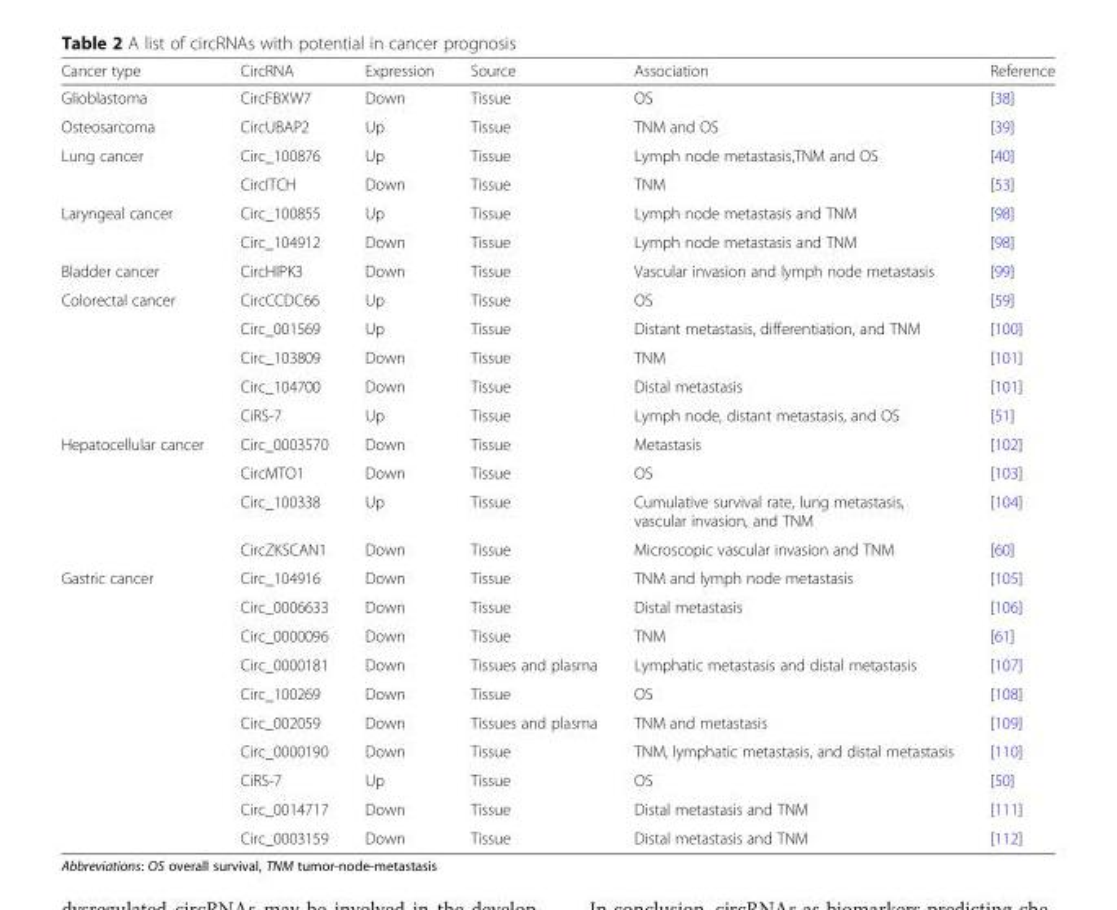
<table><thead><tr><td>Cancer type</td><td>CircRNA</td><td>Expression</td><td>Source</td><td>Association</td><td>Reference</td></tr></thead><tbody><tr><td>Glioblastoma</td><td>CircFBXW7</td><td>Down</td><td>Tissue</td><td>OS</td><td>[38]</td></tr><tr><td>Osteosarcoma</td><td>CircUBAP2</td><td>Up</td><td>Tissue</td><td>TNM and OS</td><td>[39]</td></tr><tr><td rowspan="2">Lung cancer</td><td>Circ_100876</td><td>Up</td><td>Tissue</td><td>Lymph node metastasis,TNM and OS</td><td>[40]</td></tr><tr><td>CircITCH</td><td>Down</td><td>Tissue</td><td>TNM</td><td>[53]</td></tr><tr><td rowspan="2">Laryngeal cancer</td><td>Circ_100855</td><td>Up</td><td>Tissue</td><td>Lymph node metastasis and TNM</td><td>[98]</td></tr><tr><td>Circ_104912</td><td>Down</td><td>Tissue</td><td>Lymph node metastasis and TNM</td><td>[98]</td></tr><tr><td>Bladder cancer</td><td>CircHIPK3</td><td>Down</td><td>Tissue</td><td>Vascular invasion and lymph node metastasis</td><td>[99]</td></tr><tr><td rowspan="5">Colorectal cancer</td><td>CircCCDC66</td><td>Up</td><td>Tissue</td><td>OS</td><td>[59]</td></tr><tr><td>Circ_001569</td><td>Up</td><td>Tissue</td><td>Distant metastasis, differentiation, and TNM</td><td>[100]</td></tr><tr><td>Circ_103809</td><td>Down</td><td>Tissue</td><td>TNM</td><td>[101]</td></tr><tr><td>Circ_104700</td><td>Down</td><td>Tissue</td><td>Distal metastasis</td><td>[101]</td></tr><tr><td>CiRS-7</td><td>Up</td><td>Tissue</td><td>Lymph node, distant metastasis, and OS</td><td>[51]</td></tr><tr><td rowspan="4">Hepatocellular cancer</td><td>Circ_0003570</td><td>Down</td><td>Tissue</td><td>Metastasis</td><td>[102]</td></tr><tr><td>CircMTO1</td><td>Down</td><td>Tissue</td><td>OS</td><td>[103]</td></tr><tr><td>Circ_100338</td><td>Up</td><td>Tissue</td><td>Cumulative survival rate, lung metastasis, vascular invasion, and TNM</td><td>[104]</td></tr><tr><td>CircZKSCAN1</td><td>Down</td><td>Tissue</td><td>Microscopic vascular invasion and TNM</td><td>[60]</td></tr><tr><td rowspan="10">Gastric cancer</td><td>Circ_104916</td><td>Down</td><td>Tissue</td><td>TNM and lymph node metastasis</td><td>[105]</td></tr><tr><td>Circ_0006633</td><td>Down</td><td>Tissue</td><td>Distal metastasis</td><td>[106]</td></tr><tr><td>Circ_0000096</td><td>Down</td><td>Tissue</td><td>TNM</td><td>[61]</td></tr><tr><td>Circ_0000181</td><td>Down</td><td>Tissues and plasma</td><td>Lymphatic metastasis and distal metastasis</td><td>[107]</td></tr><tr><td>Circ_100269</td><td>Down</td><td>Tissue</td><td>OS</td><td>[108]</td></tr><tr><td>Circ_002059</td><td>Down</td><td>Tissues and plasma</td><td>TNM and metastasis</td><td>[109]</td></tr><tr><td>Circ_0000190</td><td>Down</td><td>Tissue</td><td>TNM, lymphatic metastasis, and distal metastasis</td><td>[110]</td></tr><tr><td>CiRS-7</td><td>Up</td><td>Tissue</td><td>OS</td><td>[50]</td></tr><tr><td>Circ_0014717</td><td>Down</td><td>Tissue</td><td>Distal metastasis and TNM</td><td>[111]</td></tr><tr><td>Circ_0003159</td><td>Down</td><td>Tissue</td><td>Distal metastasis and TNM</td><td>[112]</td></tr></tbody></table>